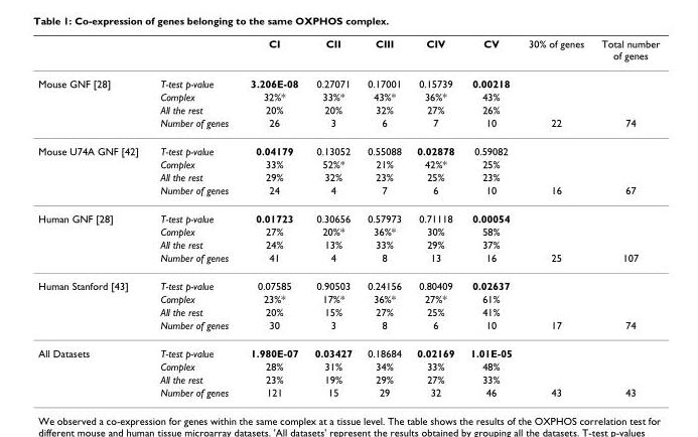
<table><thead><tr><td></td><td></td><td>CI</td><td>CII</td><td>CIII</td><td>CIV</td><td>CV</td><td>30% of genes</td><td>Total number of genes</td></tr></thead><tbody><tr><td rowspan="4">Mouse GNF [28]</td><td>T-test p-value</td><td>3.206E-08</td><td>0.27071</td><td>0.17001</td><td>0.15739</td><td>0.00218</td><td></td><td></td></tr><tr><td>Complex</td><td>32%*</td><td>33%*</td><td>43%*</td><td>36%*</td><td>43%</td><td></td><td></td></tr><tr><td>All the rest</td><td>20%</td><td>20%</td><td>32%</td><td>27%</td><td>26%</td><td></td><td></td></tr><tr><td>Number of genes</td><td>26</td><td>3</td><td>6</td><td>7</td><td>10</td><td>22</td><td>74</td></tr><tr><td rowspan="4">Mouse U74A GNF [42]</td><td>T-test p-value</td><td>0.04179</td><td>0.13052</td><td>0.55088</td><td>0.02878</td><td>0.59082</td><td></td><td></td></tr><tr><td>Complex</td><td>33%</td><td>52%*</td><td>21%</td><td>42%*</td><td>25%</td><td></td><td></td></tr><tr><td>All the rest</td><td>29%</td><td>32%</td><td>23%</td><td>25%</td><td>23%</td><td></td><td></td></tr><tr><td>Number of genes</td><td>24</td><td>4</td><td>7</td><td>6</td><td>10</td><td>16</td><td>67</td></tr><tr><td rowspan="4">Human GNF [28]</td><td>T-test p-value</td><td>0.01723</td><td>0.30656</td><td>0.57973</td><td>0.71118</td><td>0.00054</td><td></td><td></td></tr><tr><td>Complex</td><td>27%</td><td>20%*</td><td>36%*</td><td>30%</td><td>58%</td><td></td><td></td></tr><tr><td>All the rest</td><td>24%</td><td>13%</td><td>33%</td><td>29%</td><td>37%</td><td></td><td></td></tr><tr><td>Number of genes</td><td>41</td><td>4</td><td>8</td><td>13</td><td>16</td><td>25</td><td>107</td></tr><tr><td rowspan="4">Human Stanford [43]</td><td>T-test p-value</td><td>0.07585</td><td>0.90503</td><td>0.24156</td><td>0.80409</td><td>0.02637</td><td></td><td></td></tr><tr><td>Complex</td><td>23%*</td><td>17%*</td><td>36%*</td><td>27%*</td><td>61%</td><td></td><td></td></tr><tr><td>All the rest</td><td>20%</td><td>15%</td><td>27%</td><td>25%</td><td>41%</td><td></td><td></td></tr><tr><td>Number of genes</td><td>30</td><td>3</td><td>8</td><td>6</td><td>10</td><td>17</td><td>74</td></tr><tr><td rowspan="4">All Datasets</td><td>T-test p-value</td><td>1.980E-07</td><td>0.03427</td><td>0.18684</td><td>0.02169</td><td>1.01E-05</td><td></td><td></td></tr><tr><td>Complex</td><td>28%</td><td>31%</td><td>34%</td><td>33%</td><td>48%</td><td></td><td></td></tr><tr><td>All the rest</td><td>23%</td><td>19%</td><td>29%</td><td>27%</td><td>33%</td><td></td><td></td></tr><tr><td>Number of genes</td><td>121</td><td>15</td><td>29</td><td>32</td><td>46</td><td>43</td><td>43</td></tr></tbody></table>